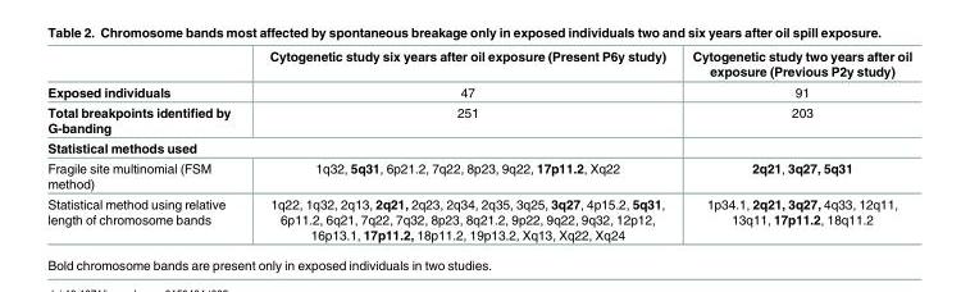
<table><thead><tr><td></td><td>Cytogenetic study six years after oil exposure (Present P6y study)</td><td>Cytogenetic study two years after oil exposure (Previous P2y study)</td></tr></thead><tbody><tr><td>Exposed individuals</td><td>47</td><td>91</td></tr><tr><td>Total breakpoints identified by G-banding</td><td>251</td><td>203</td></tr><tr><td colspan="3">Statistical methods used</td></tr><tr><td>Fragile site multinomial (FSM method)</td><td>1q32, 5q31, 6p21.2, 7q22, 8p23, 9q22, 17p11.2, Xq22</td><td>2q21, 3q27, 5q31</td></tr><tr><td>Statistical method using relative length of chromosome bands</td><td>1q22, 1q32, 2q13, 2q21, 2q23, 2q34, 2q35, 3q25, 3q27, 4p15.2, 5q31, 6p11.2, 6q21, 7q22, 7q32, 8p23, 8q21.2, 9p22, 9q22, 9q32, 12p12, 16p13.1, 17p11.2, 18p11.2, 19p13.2, Xq13, Xq22, Xq24</td><td>1p34.1, 2q21, 3q27, 4q33, 12q11, 13q11, 17p11.2, 18q11.2</td></tr></tbody></table>